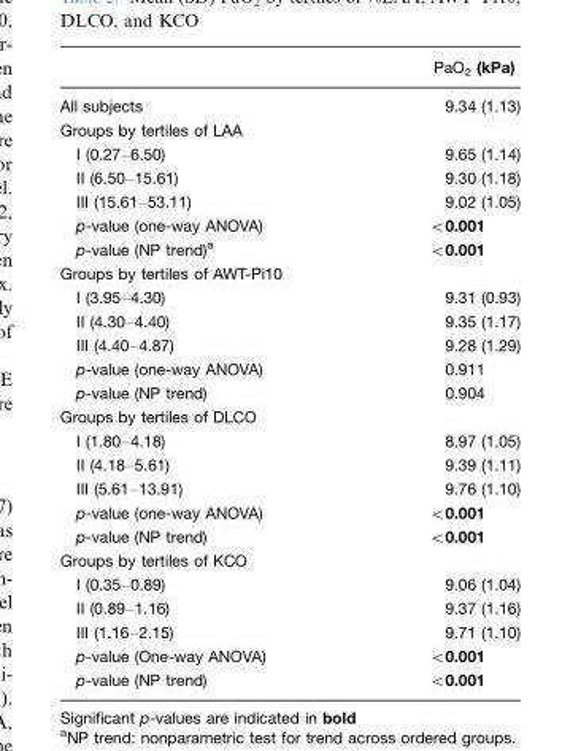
<table><thead><tr><td></td><td>PaO<sub>2</sub> (kPa)</td></tr></thead><tbody><tr><td>All subjects</td><td>9.34 (1.13)</td></tr><tr><td colspan="2">Groups by tertiles of LAA</td></tr><tr><td>I (0.27–6.50)</td><td>9.65 (1.14)</td></tr><tr><td>II (6.50–15.61)</td><td>9.30 (1.18)</td></tr><tr><td>III (15.61–53.11)</td><td>9.02 (1.05)</td></tr><tr><td>p-value (one-way ANOVA)</td><td>&lt;0.001</td></tr><tr><td>p-value (NP trend)<sup>a</sup></td><td>&lt;0.001</td></tr><tr><td colspan="2">Groups by tertiles of AWT-Pi10</td></tr><tr><td>I (3.95–4.30)</td><td>9.31 (0.93)</td></tr><tr><td>II (4.30–4.40)</td><td>9.35 (1.17)</td></tr><tr><td>III (4.40–4.87)</td><td>9.28 (1.29)</td></tr><tr><td>p-value (one-way ANOVA)</td><td>0.911</td></tr><tr><td>p-value (NP trend)</td><td>0.904</td></tr><tr><td colspan="2">Groups by tertiles of DLCO</td></tr><tr><td>I (1.80–4.18)</td><td>8.97 (1.05)</td></tr><tr><td>II (4.18–5.61)</td><td>9.39 (1.11)</td></tr><tr><td>III (5.61–13.91)</td><td>9.76 (1.10)</td></tr><tr><td>p-value (one-way ANOVA)</td><td>&lt;0.001</td></tr><tr><td>p-value (NP trend)</td><td>&lt;0.001</td></tr><tr><td colspan="2">Groups by tertiles of KCO</td></tr><tr><td>I (0.35–0.89)</td><td>9.06 (1.04)</td></tr><tr><td>II (0.89–1.16)</td><td>9.37 (1.16)</td></tr><tr><td>III (1.16–2.15)</td><td>9.71 (1.10)</td></tr><tr><td>p-value (One-way ANOVA)</td><td>&lt;0.001</td></tr><tr><td>p-value (NP trend)</td><td>&lt;0.001</td></tr></tbody></table>